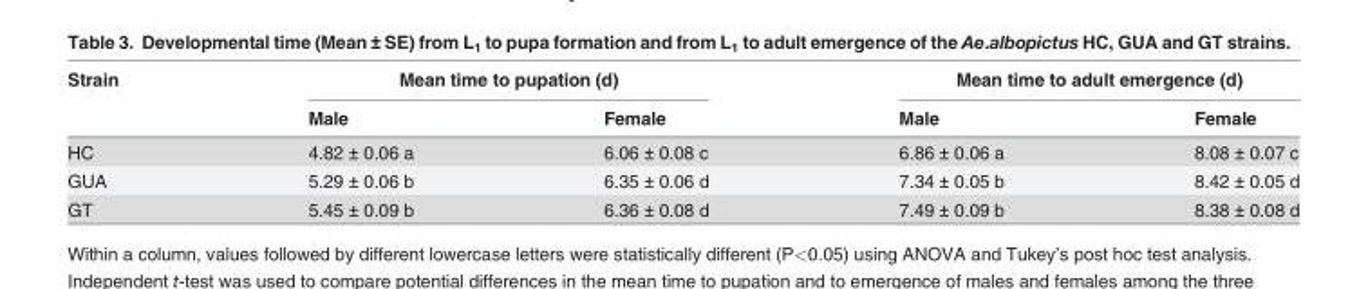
<table><thead><tr><td rowspan="2">Strain</td><td colspan="2">Mean time to pupation (d)</td><td colspan="2">Mean time to adult emergence (d)</td></tr><tr><td>Male</td><td>Female</td><td>Male</td><td>Female</td></tr></thead><tbody><tr><td>HC</td><td>4.82 ± 0.06 a</td><td>6.06 ± 0.08 c</td><td>6.86 ± 0.06 a</td><td>8.08 ± 0.07 c</td></tr><tr><td>GUA</td><td>5.29 ± 0.06 b</td><td>6.35 ± 0.06 d</td><td>7.34 ± 0.05 b</td><td>8.42 ± 0.05 d</td></tr><tr><td>GT</td><td>5.45 ± 0.09 b</td><td>6.36 ± 0.08 d</td><td>7.49 ± 0.09 b</td><td>8.38 ± 0.08 d</td></tr></tbody></table>